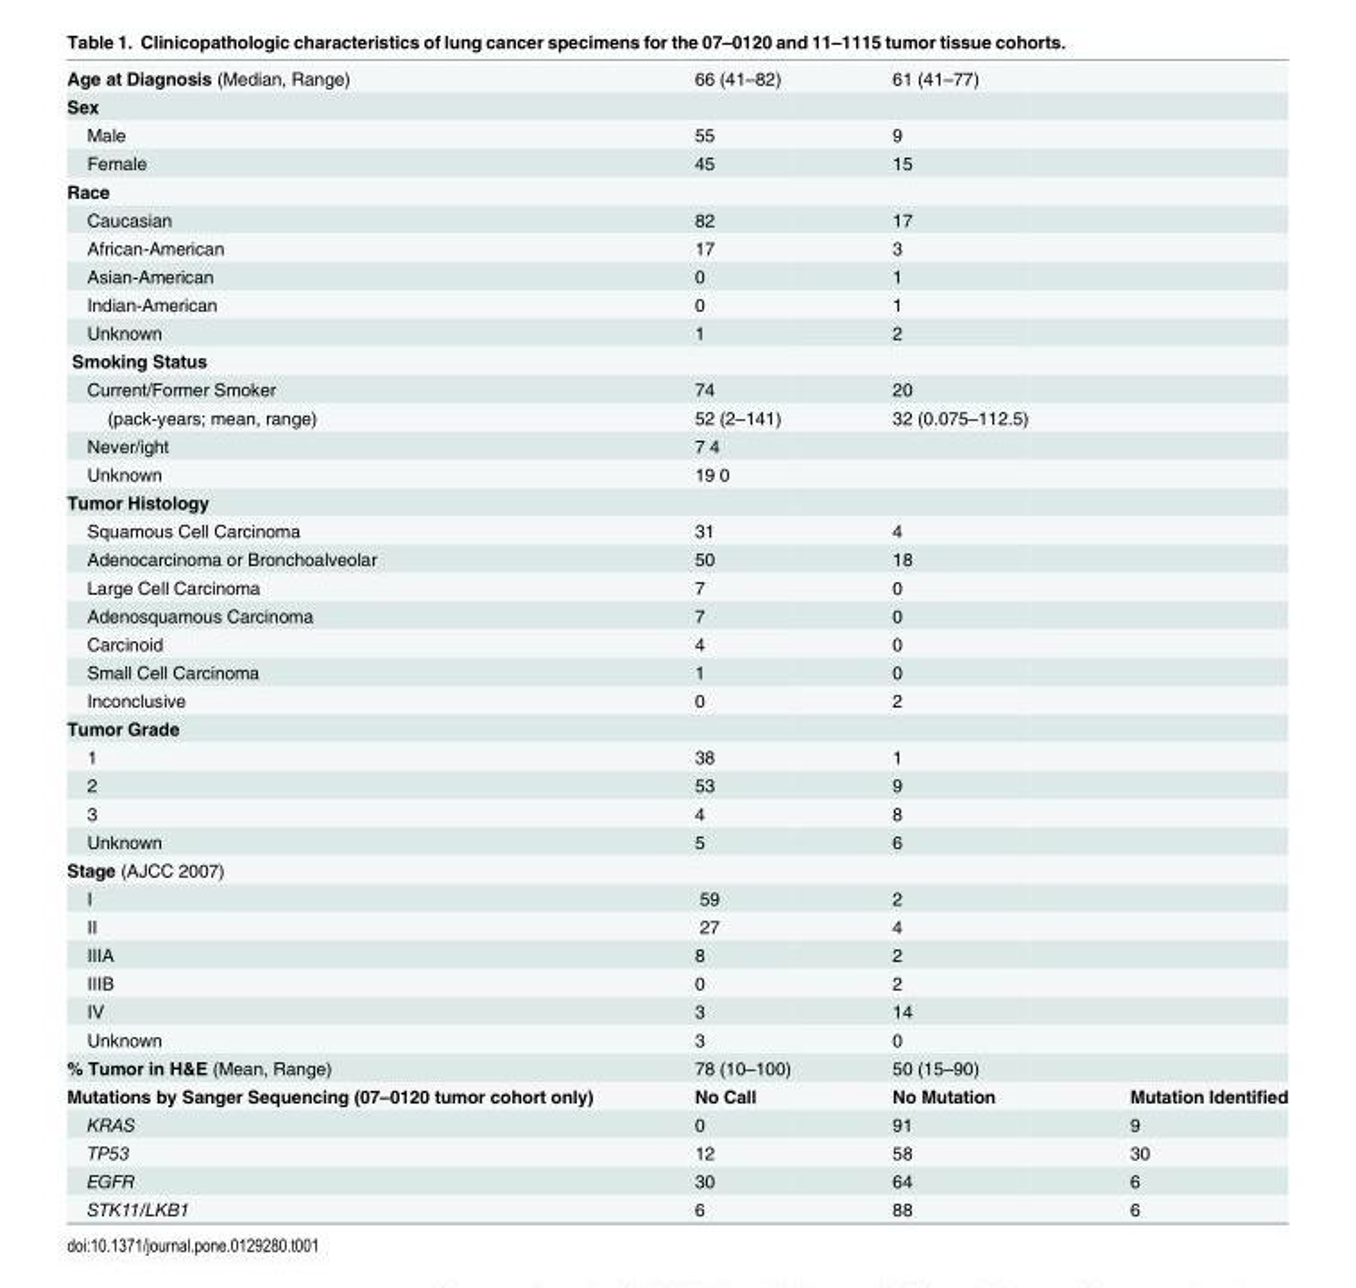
<table><tbody><tr><td>Age at Diagnosis (Median, Range)</td><td>66 (41–82)</td><td>61 (41–77)</td><td></td></tr><tr><td colspan="4">Sex</td></tr><tr><td>Male</td><td>55</td><td>9</td><td></td></tr><tr><td>Female</td><td>45</td><td>15</td><td></td></tr><tr><td colspan="4">Race</td></tr><tr><td>Caucasian</td><td>82</td><td>17</td><td></td></tr><tr><td>African-American</td><td>17</td><td>3</td><td></td></tr><tr><td>Asian-American</td><td>0</td><td>1</td><td></td></tr><tr><td>Indian-American</td><td>0</td><td>1</td><td></td></tr><tr><td>Unknown</td><td>1</td><td>2</td><td></td></tr><tr><td colspan="4">Smoking Status</td></tr><tr><td>Current/Former Smoker</td><td>74</td><td>20</td><td></td></tr><tr><td>(pack-years; mean, range)</td><td>52 (2–141)</td><td>32 (0.075–112.5)</td><td></td></tr><tr><td>Never/ight</td><td>7 4</td><td></td><td></td></tr><tr><td>Unknown</td><td>19 0</td><td></td><td></td></tr><tr><td colspan="4">Tumor Histology</td></tr><tr><td>Squamous Cell Carcinoma</td><td>31</td><td>4</td><td></td></tr><tr><td>Adenocarcinoma or Bronchoalveolar</td><td>50</td><td>18</td><td></td></tr><tr><td>Large Cell Carcinoma</td><td>7</td><td>0</td><td></td></tr><tr><td>Adenosquamous Carcinoma</td><td>7</td><td>0</td><td></td></tr><tr><td>Carcinoid</td><td>4</td><td>0</td><td></td></tr><tr><td>Small Cell Carcinoma</td><td>1</td><td>0</td><td></td></tr><tr><td>Inconclusive</td><td>0</td><td>2</td><td></td></tr><tr><td colspan="4">Tumor Grade</td></tr><tr><td>1</td><td>38</td><td>1</td><td></td></tr><tr><td>2</td><td>53</td><td>9</td><td></td></tr><tr><td>3</td><td>4</td><td>8</td><td></td></tr><tr><td>Unknown</td><td>5</td><td>6</td><td></td></tr><tr><td colspan="4">Stage (AJCC 2007)</td></tr><tr><td>I</td><td>59</td><td>2</td><td></td></tr><tr><td>II</td><td>27</td><td>4</td><td></td></tr><tr><td>IIIA</td><td>8</td><td>2</td><td></td></tr><tr><td>IIIB</td><td>0</td><td>2</td><td></td></tr><tr><td>IV</td><td>3</td><td>14</td><td></td></tr><tr><td>Unknown</td><td>3</td><td>0</td><td></td></tr><tr><td>% Tumor in H&amp;E (Mean, Range)</td><td>78 (10–100)</td><td>50 (15–90)</td><td></td></tr><tr><td>Mutations by Sanger Sequencing (07–0120 tumor cohort only)</td><td>No Call</td><td>No Mutation</td><td>Mutation Identified</td></tr><tr><td>KRAS</td><td>0</td><td>91</td><td>9</td></tr><tr><td>TP53</td><td>12</td><td>58</td><td>30</td></tr><tr><td>EGFR</td><td>30</td><td>64</td><td>6</td></tr><tr><td>STK11/LKB1</td><td>6</td><td>88</td><td>6</td></tr></tbody></table>